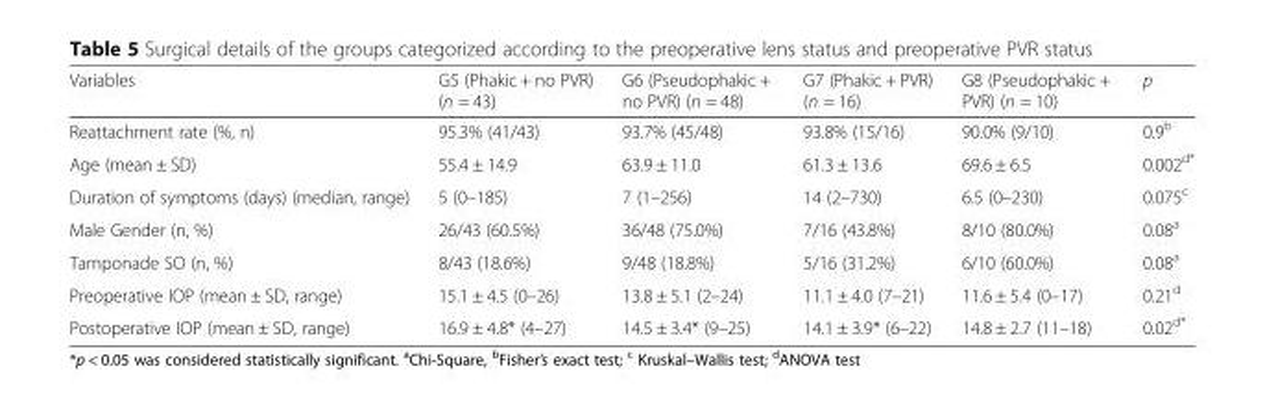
<table><thead><tr><td>Variables</td><td>G5 (Phakic + no PVR) (n = 43)</td><td>G6 (Pseudophakic + no PVR) (n = 48)</td><td>G7 (Phakic + PVR) (n = 16)</td><td>G8 (Pseudophakic + PVR) (n = 10)</td><td>p</td></tr></thead><tbody><tr><td>Reattachment rate (%, n)</td><td>95.3% (41/43)</td><td>93.7% (45/48)</td><td>93.8% (15/16)</td><td>90.0% (9/10)</td><td>0.9<sup>b</sup></td></tr><tr><td>Age (mean ± SD)</td><td>55.4 ± 14.9</td><td>63.9 ± 11.0</td><td>61.3 ± 13.6</td><td>69.6 ± 6.5</td><td>0.002<sup>d*</sup></td></tr><tr><td>Duration of symptoms (days) (median, range)</td><td>5 (0–185)</td><td>7 (1–256)</td><td>14 (2–730)</td><td>6.5 (0–230)</td><td>0.075<sup>c</sup></td></tr><tr><td>Male Gender (n, %)</td><td>26/43 (60.5%)</td><td>36/48 (75.0%)</td><td>7/16 (43.8%)</td><td>8/10 (80.0%)</td><td>0.08<sup>a</sup></td></tr><tr><td>Tamponade SO (n, %)</td><td>8/43 (18.6%)</td><td>9/48 (18.8%)</td><td>5/16 (31.2%)</td><td>6/10 (60.0%)</td><td>0.08<sup>a</sup></td></tr><tr><td>Preoperative IOP (mean ± SD, range)</td><td>15.1 ± 4.5 (0–26)</td><td>13.8 ± 5.1 (2–24)</td><td>11.1 ± 4.0 (7–21)</td><td>11.6 ± 5.4 (0–17)</td><td>0.21<sup>d</sup></td></tr><tr><td>Postoperative IOP (mean ± SD, range)</td><td>16.9 ± 4.8* (4–27)</td><td>14.5 ± 3.4* (9–25)</td><td>14.1 ± 3.9* (6–22)</td><td>14.8 ± 2.7 (11–18)</td><td>0.02<sup>d*</sup></td></tr></tbody></table>